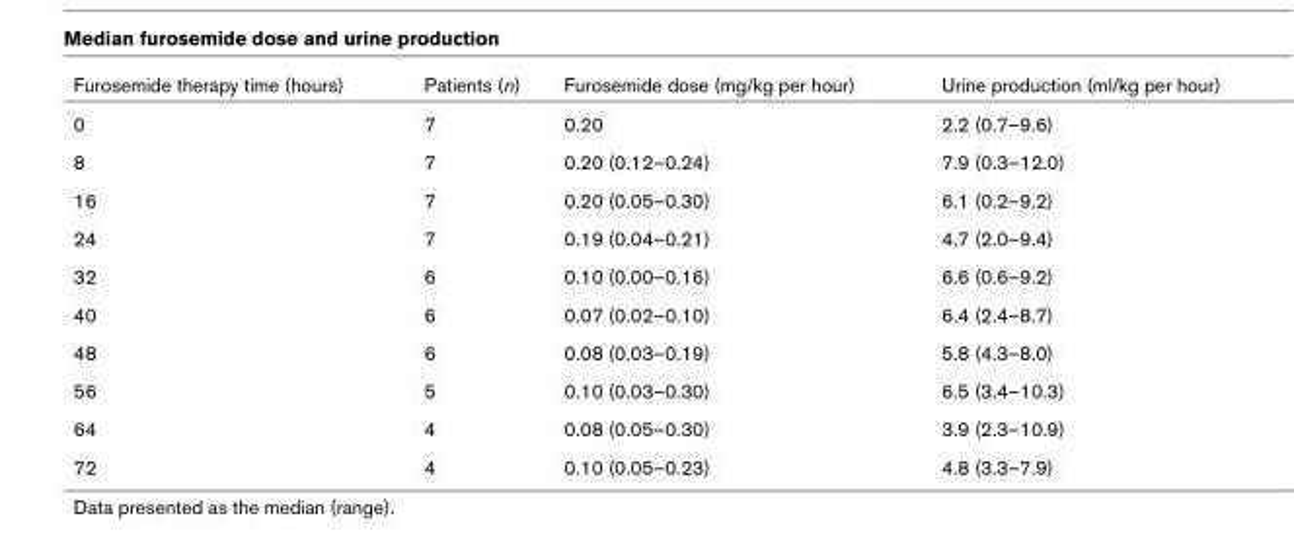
<table><thead><tr><td>Furosemide therapy time (hours)</td><td>Patients (n)</td><td>Furosemide dose (mg/kg per hour)</td><td>Urine production (ml/kg per hour)</td></tr></thead><tbody><tr><td>0</td><td>7</td><td>0.20</td><td>2.2 (0.7–9.6)</td></tr><tr><td>8</td><td>7</td><td>0.20 (0.12–0.24)</td><td>7.9 (0.3–12.0)</td></tr><tr><td>16</td><td>7</td><td>0.20 (0.05–0.30)</td><td>6.1 (0.2–9.2)</td></tr><tr><td>24</td><td>7</td><td>0.19 (0.04–0.21)</td><td>4.7 (2.0–9.4)</td></tr><tr><td>32</td><td>6</td><td>0.10 (0.00–0.16)</td><td>6.6 (0.6–9.2)</td></tr><tr><td>40</td><td>6</td><td>0.07 (0.02–0.10)</td><td>6.4 (2.4–8.7)</td></tr><tr><td>48</td><td>6</td><td>0.08 (0.03–0.19)</td><td>5.8 (4.3–8.0)</td></tr><tr><td>56</td><td>5</td><td>0.10 (0.03–0.30)</td><td>6.5 (3.4–10.3)</td></tr><tr><td>64</td><td>4</td><td>0.08 (0.05–0.30)</td><td>3.9 (2.3–10.9)</td></tr><tr><td>72</td><td>4</td><td>0.10 (0.05–0.23)</td><td>4.8 (3.3–7.9)</td></tr></tbody></table>